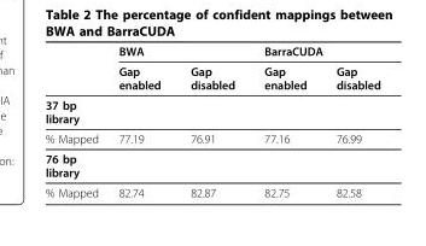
<table><thead><tr><td rowspan="2"></td><td colspan="2">BWA</td><td colspan="2">BarraCUDA</td></tr><tr><td>Gap enabled</td><td>Gap disabled</td><td>Gap enabled</td><td>Gap disabled</td></tr></thead><tbody><tr><td colspan="5">37 bp library</td></tr><tr><td>% Mapped</td><td>77.19</td><td>76.91</td><td>77.16</td><td>76.99</td></tr><tr><td colspan="5">76 bp library</td></tr><tr><td>% Mapped</td><td>82.74</td><td>82.87</td><td>82.75</td><td>82.58</td></tr></tbody></table>